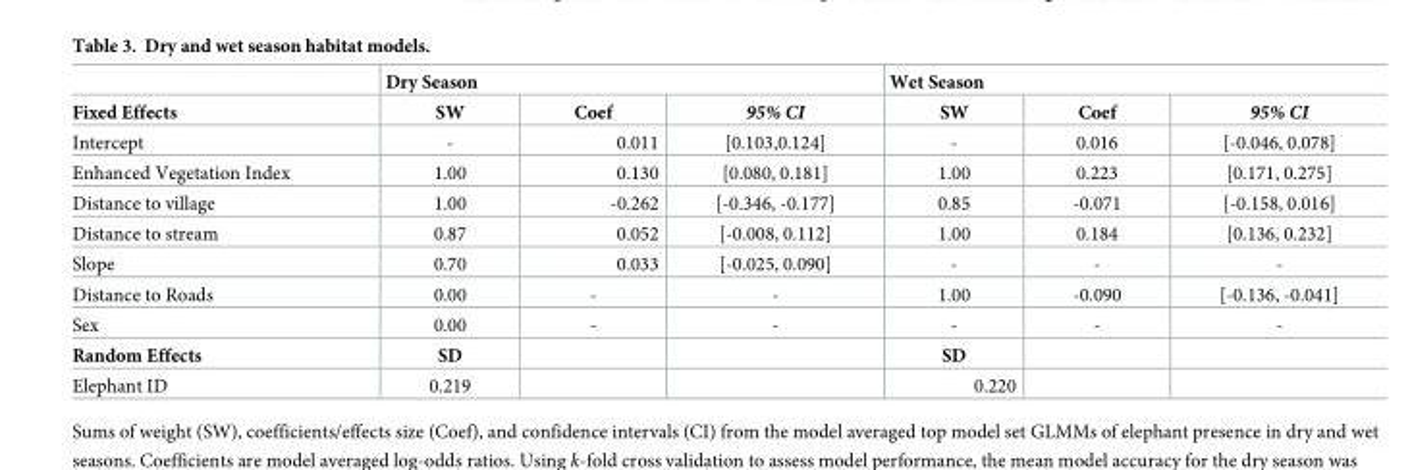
<table><thead><tr><td rowspan="2">Fixed Effects</td><td colspan="3">Dry Season</td><td colspan="3">Wet Season</td></tr><tr><td>SW</td><td>Coef</td><td>95% CI</td><td>SW</td><td>Coef</td><td>95% CI</td></tr></thead><tbody><tr><td>Intercept</td><td>-</td><td>0.011</td><td>[0.103,0.124]</td><td>-</td><td>0.016</td><td>[-0.046, 0.078]</td></tr><tr><td>Enhanced Vegetation Index</td><td>1.00</td><td>0.130</td><td>[0.080, 0.181]</td><td>1.00</td><td>0.223</td><td>[0.171, 0.275]</td></tr><tr><td>Distance to village</td><td>1.00</td><td>-0.262</td><td>[-0.346, -0.177]</td><td>0.85</td><td>-0.071</td><td>[-0.158, 0.016]</td></tr><tr><td>Distance to stream</td><td>0.87</td><td>0.052</td><td>[-0.008, 0.112]</td><td>1.00</td><td>0.184</td><td>[0.136, 0.232]</td></tr><tr><td>Slope</td><td>0.70</td><td>0.033</td><td>[-0.025, 0.090]</td><td>-</td><td>-</td><td>-</td></tr><tr><td>Distance to Roads</td><td>0.00</td><td>-</td><td>-</td><td>1.00</td><td>-0.090</td><td>[-0.136, -0.041]</td></tr><tr><td>Sex</td><td>0.00</td><td>-</td><td>-</td><td>-</td><td>-</td><td>-</td></tr><tr><td>Random Effects</td><td>SD</td><td></td><td></td><td>SD</td><td></td><td></td></tr><tr><td>Elephant ID</td><td>0.219</td><td></td><td></td><td>0.220</td><td></td><td></td></tr></tbody></table>